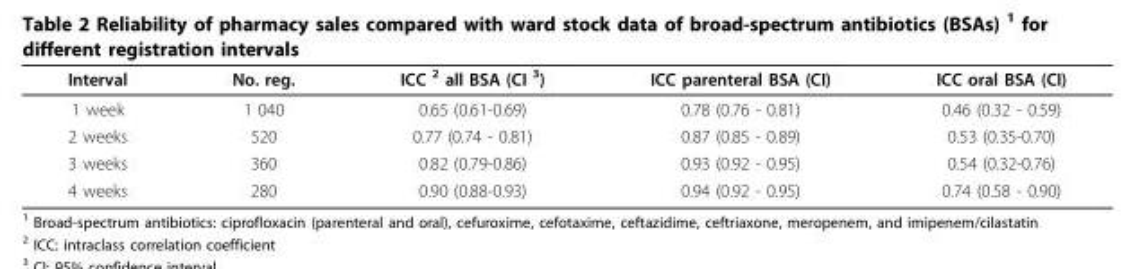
<table><thead><tr><td>Interval</td><td>No. reg.</td><td>ICC <sup>2</sup> all BSA (CI <sup>3</sup>)</td><td>ICC parenteral BSA (CI)</td><td>ICC oral BSA (CI)</td></tr></thead><tbody><tr><td>1 week</td><td>1 040</td><td>0.65 (0.61-0.69)</td><td>0.78 (0.76 - 0.81)</td><td>0.46 (0.32 - 0.59)</td></tr><tr><td>2 weeks</td><td>520</td><td>0.77 (0.74 - 0.81)</td><td>0.87 (0.85 - 0.89)</td><td>0.53 (0.35-0.70)</td></tr><tr><td>3 weeks</td><td>360</td><td>0.82 (0.79-0.86)</td><td>0.93 (0.92 - 0.95)</td><td>0.54 (0.32-0.76)</td></tr><tr><td>4 weeks</td><td>280</td><td>0.90 (0.88-0.93)</td><td>0.94 (0.92 - 0.95)</td><td>0.74 (0.58 - 0.90)</td></tr></tbody></table>